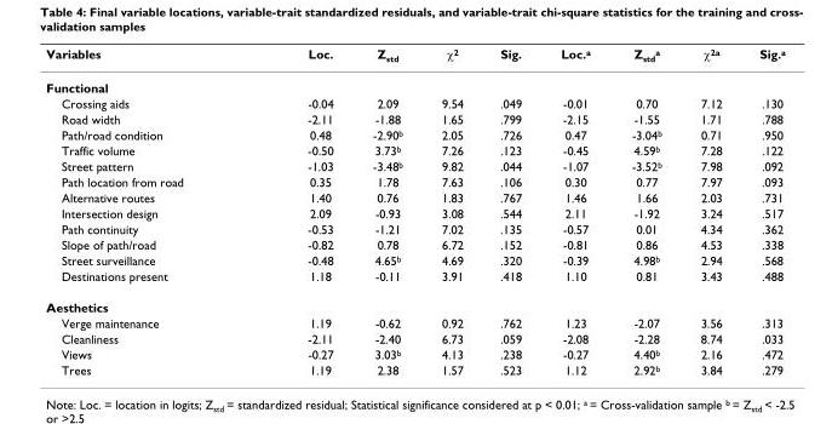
<table><thead><tr><td>Variables</td><td>Loc.</td><td>Z<sub>std</sub></td><td>χ<sup>2</sup></td><td>Sig.</td><td>Loc.<sup>a</sup></td><td>Z<sub>std</sub><sup>a</sup></td><td>χ<sup>2a</sup></td><td>Sig.<sup>a</sup></td></tr></thead><tbody><tr><td colspan="9">Functional</td></tr><tr><td>Crossing aids</td><td>-0.04</td><td>2.09</td><td>9.54</td><td>.049</td><td>-0.01</td><td>0.70</td><td>7.12</td><td>.130</td></tr><tr><td>Road width</td><td>-2.11</td><td>-1.88</td><td>1.65</td><td>.799</td><td>-2.15</td><td>-1.55</td><td>1.71</td><td>.788</td></tr><tr><td>Path/road condition</td><td>0.48</td><td>-2.90<sup>b</sup></td><td>2.05</td><td>.726</td><td>0.47</td><td>-3.04<sup>b</sup></td><td>0.71</td><td>.950</td></tr><tr><td>Traffic volume</td><td>-0.50</td><td>3.73<sup>b</sup></td><td>7.26</td><td>.123</td><td>-0.45</td><td>4.59<sup>b</sup></td><td>7.28</td><td>.122</td></tr><tr><td>Street pattern</td><td>-1.03</td><td>-3.48<sup>b</sup></td><td>9.82</td><td>.044</td><td>-1.07</td><td>-3.52<sup>b</sup></td><td>7.98</td><td>.092</td></tr><tr><td>Path location from road</td><td>0.35</td><td>1.78</td><td>7.63</td><td>.106</td><td>0.30</td><td>0.77</td><td>7.97</td><td>.093</td></tr><tr><td>Alternative routes</td><td>1.40</td><td>0.76</td><td>1.83</td><td>.767</td><td>1.46</td><td>1.66</td><td>2.03</td><td>.731</td></tr><tr><td>Intersection design</td><td>2.09</td><td>-0.93</td><td>3.08</td><td>.544</td><td>2.11</td><td>-1.92</td><td>3.24</td><td>.517</td></tr><tr><td>Path continuity</td><td>-0.53</td><td>-1.21</td><td>7.02</td><td>.135</td><td>-0.57</td><td>0.01</td><td>4.34</td><td>.362</td></tr><tr><td>Slope of path/road</td><td>-0.82</td><td>0.78</td><td>6.72</td><td>.152</td><td>-0.81</td><td>0.86</td><td>4.53</td><td>.338</td></tr><tr><td>Street surveillance</td><td>-0.48</td><td>4.65<sup>b</sup></td><td>4.69</td><td>.320</td><td>-0.39</td><td>4.98<sup>b</sup></td><td>2.94</td><td>.568</td></tr><tr><td>Destinations present</td><td>1.18</td><td>-0.11</td><td>3.91</td><td>.418</td><td>1.10</td><td>0.81</td><td>3.43</td><td>.488</td></tr><tr><td colspan="9">Aesthetics</td></tr><tr><td>Verge maintenance</td><td>1.19</td><td>-0.62</td><td>0.92</td><td>.762</td><td>1.23</td><td>-2.07</td><td>3.56</td><td>.313</td></tr><tr><td>Cleanliness</td><td>-2.11</td><td>-2.40</td><td>6.73</td><td>.059</td><td>-2.08</td><td>-2.28</td><td>8.74</td><td>.033</td></tr><tr><td>Views</td><td>-0.27</td><td>3.03<sup>b</sup></td><td>4.13</td><td>.238</td><td>-0.27</td><td>4.40<sup>b</sup></td><td>2.16</td><td>.472</td></tr><tr><td>Trees</td><td>1.19</td><td>2.38</td><td>1.57</td><td>.523</td><td>1.12</td><td>2.92<sup>b</sup></td><td>3.84</td><td>.279</td></tr></tbody></table>